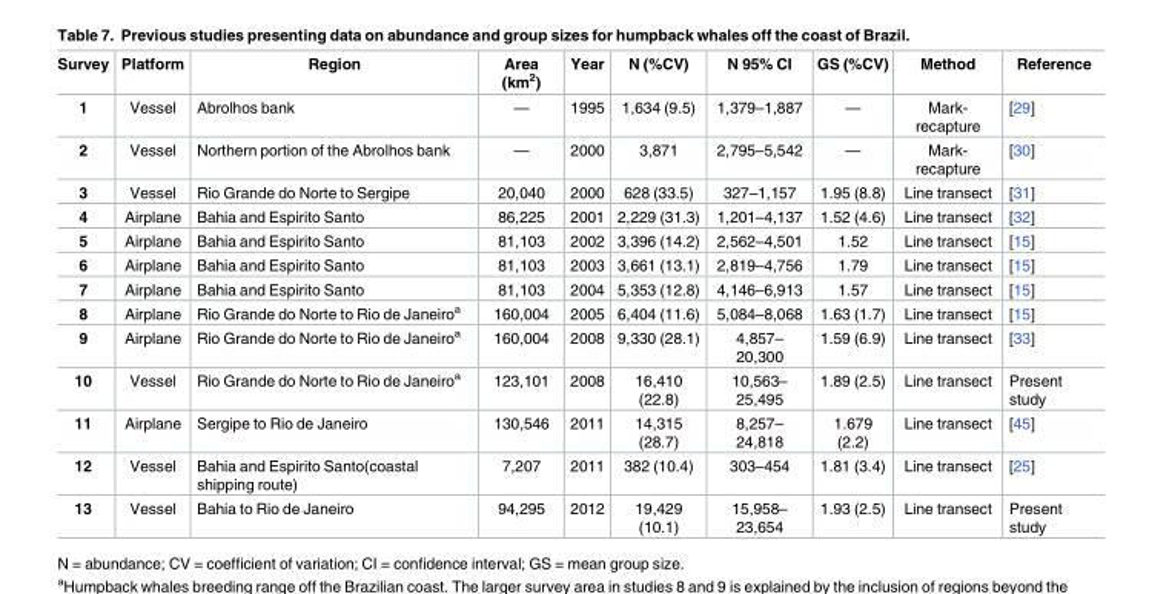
<table><thead><tr><td>Survey</td><td>Platform</td><td>Region</td><td>Area (km<sup>2</sup>)</td><td>Year</td><td>N (%CV)</td><td>N 95% CI</td><td>GS (%CV)</td><td>Method</td><td>Reference</td></tr></thead><tbody><tr><td>1</td><td>Vessel</td><td>Abrolhos bank</td><td>—</td><td>1995</td><td>1,634 (9.5)</td><td>1,379–1,887</td><td>—</td><td>Mark- recapture</td><td>[29]</td></tr><tr><td>2</td><td>Vessel</td><td>Northern portion of the Abrolhos bank</td><td>—</td><td>2000</td><td>3,871</td><td>2,795–5,542</td><td>—</td><td>Mark- recapture</td><td>[30]</td></tr><tr><td>3</td><td>Vessel</td><td>Rio Grande do Norte to Sergipe</td><td>20,040</td><td>2000</td><td>628 (33.5)</td><td>327–1,157</td><td>1.95 (8.8)</td><td>Line transect</td><td>[31]</td></tr><tr><td>4</td><td>Airplane</td><td>Bahia and Espirito Santo</td><td>86,225</td><td>2001</td><td>2,229 (31.3)</td><td>1,201–4,137</td><td>1.52 (4.6)</td><td>Line transect</td><td>[32]</td></tr><tr><td>5</td><td>Airplane</td><td>Bahia and Espirito Santo</td><td>81,103</td><td>2002</td><td>3,396 (14.2)</td><td>2,562–4,501</td><td>1.52</td><td>Line transect</td><td>[15]</td></tr><tr><td>6</td><td>Airplane</td><td>Bahia and Espirito Santo</td><td>81,103</td><td>2003</td><td>3,661 (13.1)</td><td>2,819–4,756</td><td>1.79</td><td>Line transect</td><td>[15]</td></tr><tr><td>7</td><td>Airplane</td><td>Bahia and Espirito Santo</td><td>81,103</td><td>2004</td><td>5,353 (12.8)</td><td>4,146–6,913</td><td>1.57</td><td>Line transect</td><td>[15]</td></tr><tr><td>8</td><td>Airplane</td><td>Rio Grande do Norte to Rio de Janeiro<sup>a</sup></td><td>160,004</td><td>2005</td><td>6,404 (11.6)</td><td>5,084–8,068</td><td>1.63 (1.7)</td><td>Line transect</td><td>[15]</td></tr><tr><td>9</td><td>Airplane</td><td>Rio Grande do Norte to Rio de Janeiro<sup>a</sup></td><td>160,004</td><td>2008</td><td>9,330 (28.1)</td><td>4,857– 20,300</td><td>1.59 (6.9)</td><td>Line transect</td><td>[33]</td></tr><tr><td>10</td><td>Vessel</td><td>Rio Grande do Norte to Rio de Janeiro<sup>a</sup></td><td>123,101</td><td>2008</td><td>16,410 (22.8)</td><td>10,563– 25,495</td><td>1.89 (2.5)</td><td>Line transect</td><td>Present study</td></tr><tr><td>11</td><td>Airplane</td><td>Sergipe to Rio de Janeiro</td><td>130,546</td><td>2011</td><td>14,315 (28.7)</td><td>8,257– 24,818</td><td>1.679 (2.2)</td><td>Line transect</td><td>[45]</td></tr><tr><td>12</td><td>Vessel</td><td>Bahia and Espirito Santo(coastal shipping route)</td><td>7,207</td><td>2011</td><td>382 (10.4)</td><td>303–454</td><td>1.81 (3.4)</td><td>Line transect</td><td>[25]</td></tr><tr><td>13</td><td>Vessel</td><td>Bahia to Rio de Janeiro</td><td>94,295</td><td>2012</td><td>19,429 (10.1)</td><td>15,958– 23,654</td><td>1.93 (2.5)</td><td>Line transect</td><td>Present study</td></tr></tbody></table>